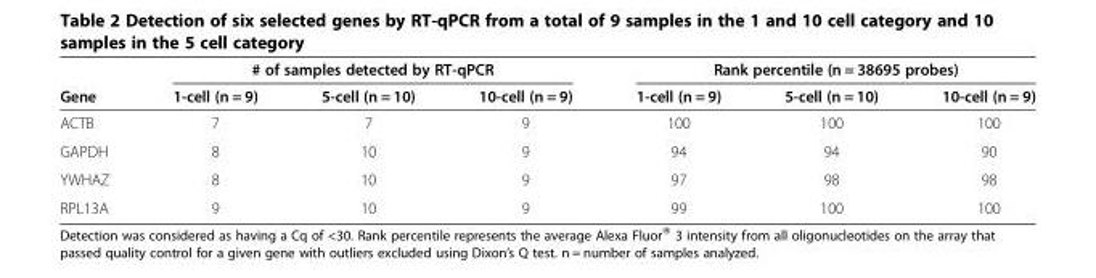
<table><thead><tr><td rowspan="2">Gene</td><td colspan="3"># of samples detected by RT-qPCR</td><td colspan="3">Rank percentile (n = 38695 probes)</td></tr><tr><td>1-cell (n = 9)</td><td>5-cell (n = 10)</td><td>10-cell (n = 9)</td><td>1-cell (n = 9)</td><td>5-cell (n = 10)</td><td>10-cell (n = 9)</td></tr></thead><tbody><tr><td>ACTB</td><td>7</td><td>7</td><td>9</td><td>100</td><td>100</td><td>100</td></tr><tr><td>GAPDH</td><td>8</td><td>10</td><td>9</td><td>94</td><td>94</td><td>90</td></tr><tr><td>YWHAZ</td><td>8</td><td>10</td><td>9</td><td>97</td><td>98</td><td>98</td></tr><tr><td>RPL13A</td><td>9</td><td>10</td><td>9</td><td>99</td><td>100</td><td>100</td></tr></tbody></table>